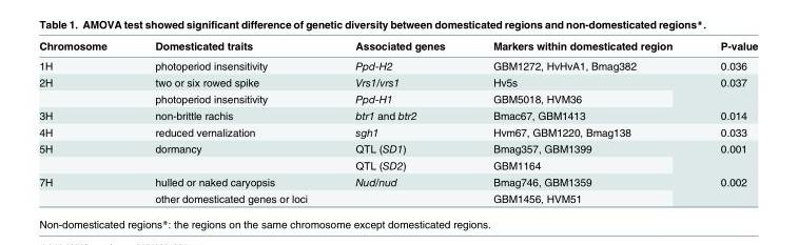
<table><thead><tr><td>Chromosome</td><td>Domesticated traits</td><td>Associated genes</td><td>Markers within domesticated region</td><td>P-value</td></tr></thead><tbody><tr><td>1H</td><td>photoperiod insensitivity</td><td>Ppd-H2</td><td>GBM1272, HvHvA1, Bmag382</td><td>0.036</td></tr><tr><td rowspan="2">2H</td><td>two or six rowed spike</td><td>Vrs1/vrs1</td><td>Hv5s</td><td rowspan="2">0.037</td></tr><tr><td>photoperiod insensitivity</td><td>Ppd-H1</td><td>GBM5018, HVM36</td></tr><tr><td>3H</td><td>non-brittle rachis</td><td>btr1 and btr2</td><td>Bmac67, GBM1413</td><td>0.014</td></tr><tr><td>4H</td><td>reduced vernalization</td><td>sgh1</td><td>Hvm67, GBM1220, Bmag138</td><td>0.033</td></tr><tr><td rowspan="2">5H</td><td>dormancy</td><td>QTL (SD1)</td><td>Bmag357, GBM1399</td><td rowspan="2">0.001</td></tr><tr><td></td><td>QTL (SD2)</td><td>GBM1164</td></tr><tr><td rowspan="2">7H</td><td>hulled or naked caryopsis</td><td>Nud/nud</td><td>Bmag746, GBM1359</td><td rowspan="2">0.002</td></tr><tr><td>other domesticated genes or loci</td><td></td><td>GBM1456, HVM51</td></tr></tbody></table>